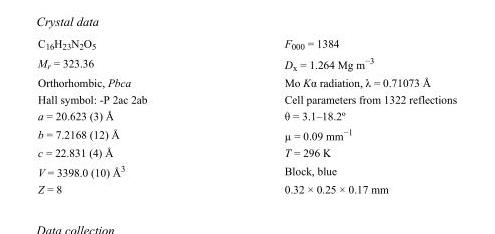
<table><tbody><tr><td>C<sub>16</sub>H<sub>23</sub>N<sub>2</sub>O<sub>5</sub></td><td>F000 = 1384</td></tr><tr><td>M<sub>r</sub> = 323.36</td><td>D<sub>x</sub> = 1.264 Mg m<sup>−3</sup></td></tr><tr><td>Orthorhombic, Pbca</td><td>Mo Kα radiation, λ = 0.71073 Å</td></tr><tr><td>Hall symbol: -P 2ac 2ab</td><td>Cell parameters from 1322 reflections</td></tr><tr><td>a = 20.623 (3) Å</td><td>θ = 3.1–18.2º</td></tr><tr><td>b = 7.2168 (12) Å</td><td>µ = 0.09 mm<sup>−1</sup></td></tr><tr><td>c = 22.831 (4) Å</td><td>T = 296 K</td></tr><tr><td>V = 3398.0 (10) Å<sup>3</sup></td><td>Block, blue</td></tr><tr><td>Z = 8</td><td>0.32 × 0.25 × 0.17 mm</td></tr></tbody></table>